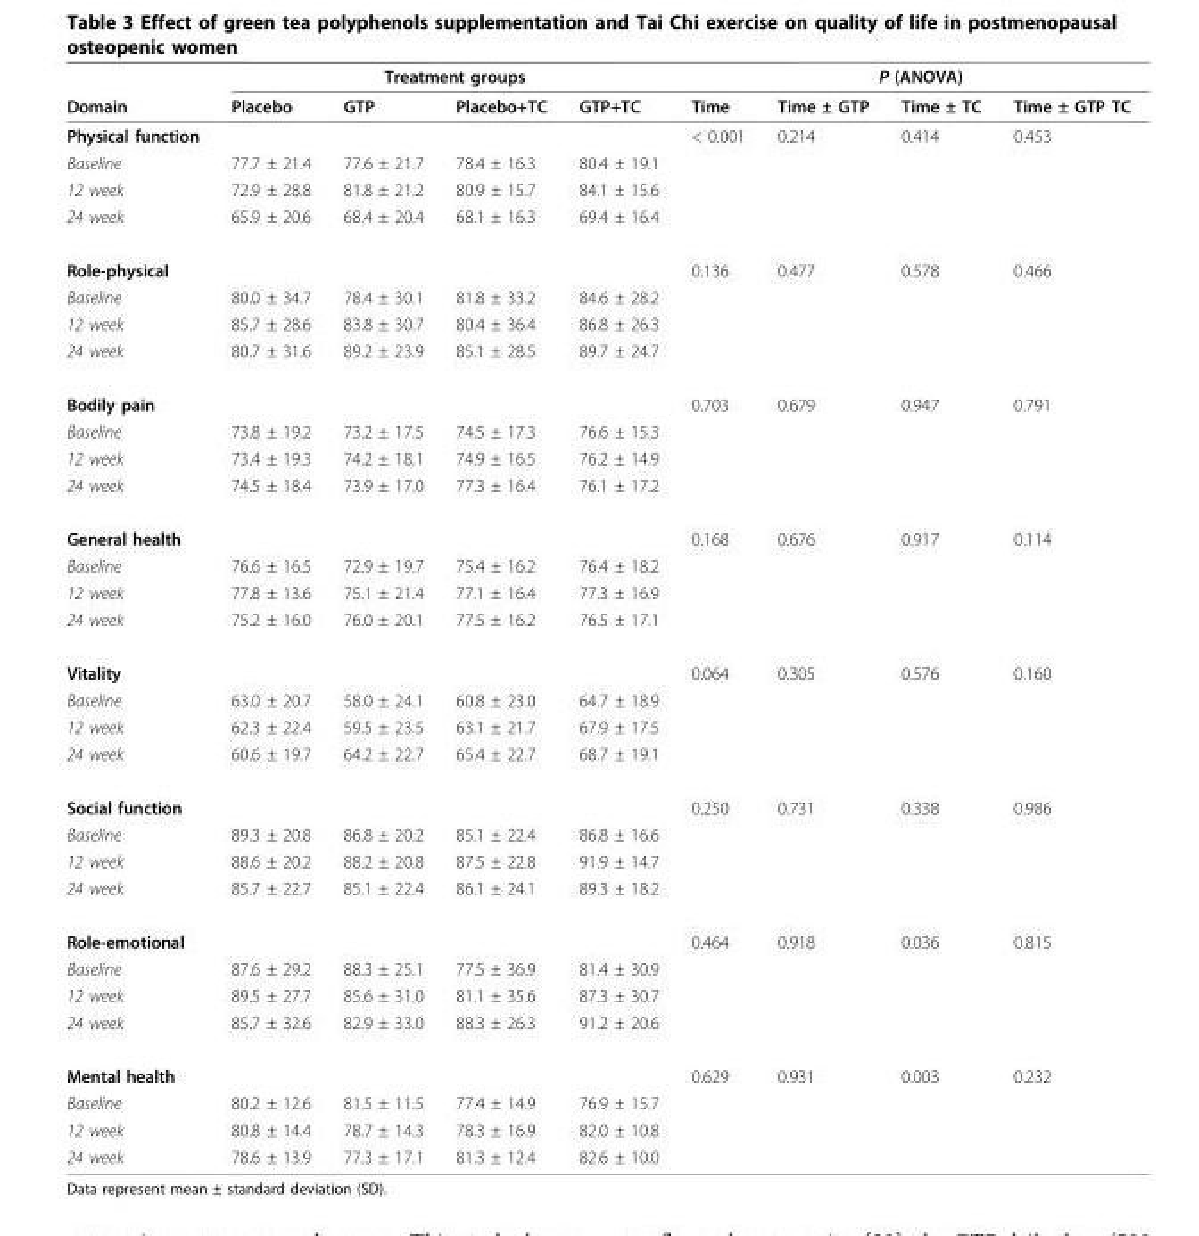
<table><thead><tr><td rowspan="2">Domain</td><td colspan="4">Treatment groups</td><td colspan="4">P (ANOVA)</td></tr><tr><td>Placebo</td><td>GTP</td><td>Placebo+TC</td><td>GTP+TC</td><td>Time</td><td>Time ± GTP</td><td>Time ± TC</td><td>Time ± GTP TC</td></tr></thead><tbody><tr><td>Physical function</td><td></td><td></td><td></td><td></td><td>&lt; 0.001</td><td>0.214</td><td>0.414</td><td>0.453</td></tr><tr><td>Baseline</td><td>77.7 ± 21.4</td><td>77.6 ± 21.7</td><td>78.4 ± 16.3</td><td>80.4 ± 19.1</td><td></td><td></td><td></td><td></td></tr><tr><td>12 week</td><td>72.9 ± 28.8</td><td>81.8 ± 21.2</td><td>80.9 ± 15.7</td><td>84.1 ± 15.6</td><td></td><td></td><td></td><td></td></tr><tr><td>24 week</td><td>65.9 ± 20.6</td><td>68.4 ± 20.4</td><td>68.1 ± 16.3</td><td>69.4 ± 16.4</td><td></td><td></td><td></td><td></td></tr><tr><td>Role-physical</td><td></td><td></td><td></td><td></td><td>0.136</td><td>0.477</td><td>0.578</td><td>0.466</td></tr><tr><td>Baseline</td><td>80.0 ± 34.7</td><td>78.4 ± 30.1</td><td>81.8 ± 33.2</td><td>84.6 ± 28.2</td><td></td><td></td><td></td><td></td></tr><tr><td>12 week</td><td>85.7 ± 28.6</td><td>83.8 ± 30.7</td><td>80.4 ± 36.4</td><td>86.8 ± 26.3</td><td></td><td></td><td></td><td></td></tr><tr><td>24 week</td><td>80.7 ± 31.6</td><td>89.2 ± 23.9</td><td>85.1 ± 28.5</td><td>89.7 ± 24.7</td><td></td><td></td><td></td><td></td></tr><tr><td>Bodily pain</td><td></td><td></td><td></td><td></td><td>0.703</td><td>0.679</td><td>0.947</td><td>0.791</td></tr><tr><td>Baseline</td><td>73.8 ± 19.2</td><td>73.2 ± 17.5</td><td>74.5 ± 17.3</td><td>76.6 ± 15.3</td><td></td><td></td><td></td><td></td></tr><tr><td>12 week</td><td>73.4 ± 19.3</td><td>74.2 ± 18.1</td><td>74.9 ± 16.5</td><td>76.2 ± 14.9</td><td></td><td></td><td></td><td></td></tr><tr><td>24 week</td><td>74.5 ± 18.4</td><td>73.9 ± 17.0</td><td>77.3 ± 16.4</td><td>76.1 ± 17.2</td><td></td><td></td><td></td><td></td></tr><tr><td>General health</td><td></td><td></td><td></td><td></td><td>0.168</td><td>0.676</td><td>0.917</td><td>0.114</td></tr><tr><td>Baseline</td><td>76.6 ± 16.5</td><td>72.9 ± 19.7</td><td>75.4 ± 16.2</td><td>76.4 ± 18.2</td><td></td><td></td><td></td><td></td></tr><tr><td>12 week</td><td>77.8 ± 13.6</td><td>75.1 ± 21.4</td><td>77.1 ± 16.4</td><td>77.3 ± 16.9</td><td></td><td></td><td></td><td></td></tr><tr><td>24 week</td><td>75.2 ± 16.0</td><td>76.0 ± 20.1</td><td>77.5 ± 16.2</td><td>76.5 ± 17.1</td><td></td><td></td><td></td><td></td></tr><tr><td>Vitality</td><td></td><td></td><td></td><td></td><td>0.064</td><td>0.305</td><td>0.576</td><td>0.160</td></tr><tr><td>Baseline</td><td>63.0 ± 20.7</td><td>58.0 ± 24.1</td><td>60.8 ± 23.0</td><td>64.7 ± 18.9</td><td></td><td></td><td></td><td></td></tr><tr><td>12 week</td><td>62.3 ± 22.4</td><td>59.5 ± 23.5</td><td>63.1 ± 21.7</td><td>67.9 ± 17.5</td><td></td><td></td><td></td><td></td></tr><tr><td>24 week</td><td>60.6 ± 19.7</td><td>64.2 ± 22.7</td><td>65.4 ± 22.7</td><td>68.7 ± 19.1</td><td></td><td></td><td></td><td></td></tr><tr><td>Social function</td><td></td><td></td><td></td><td></td><td>0.250</td><td>0.731</td><td>0.338</td><td>0.986</td></tr><tr><td>Baseline</td><td>89.3 ± 20.8</td><td>86.8 ± 20.2</td><td>85.1 ± 22.4</td><td>86.8 ± 16.6</td><td></td><td></td><td></td><td></td></tr><tr><td>12 week</td><td>88.6 ± 20.2</td><td>88.2 ± 20.8</td><td>87.5 ± 22.8</td><td>91.9 ± 14.7</td><td></td><td></td><td></td><td></td></tr><tr><td>24 week</td><td>85.7 ± 22.7</td><td>85.1 ± 22.4</td><td>86.1 ± 24.1</td><td>89.3 ± 18.2</td><td></td><td></td><td></td><td></td></tr><tr><td>Role-emotional</td><td></td><td></td><td></td><td></td><td>0.464</td><td>0.918</td><td>0.036</td><td>0.815</td></tr><tr><td>Baseline</td><td>87.6 ± 29.2</td><td>88.3 ± 25.1</td><td>77.5 ± 36.9</td><td>81.4 ± 30.9</td><td></td><td></td><td></td><td></td></tr><tr><td>12 week</td><td>89.5 ± 27.7</td><td>85.6 ± 31.0</td><td>81.1 ± 35.6</td><td>87.3 ± 30.7</td><td></td><td></td><td></td><td></td></tr><tr><td>24 week</td><td>85.7 ± 32.6</td><td>82.9 ± 33.0</td><td>88.3 ± 26.3</td><td>91.2 ± 20.6</td><td></td><td></td><td></td><td></td></tr><tr><td>Mental health</td><td></td><td></td><td></td><td></td><td>0.629</td><td>0.931</td><td>0.003</td><td>0.232</td></tr><tr><td>Baseline</td><td>80.2 ± 12.6</td><td>81.5 ± 11.5</td><td>77.4 ± 14.9</td><td>76.9 ± 15.7</td><td></td><td></td><td></td><td></td></tr><tr><td>12 week</td><td>80.8 ± 14.4</td><td>78.7 ± 14.3</td><td>78.3 ± 16.9</td><td>82.0 ± 10.8</td><td></td><td></td><td></td><td></td></tr><tr><td>24 week</td><td>78.6 ± 13.9</td><td>77.3 ± 17.1</td><td>81.3 ± 12.4</td><td>82.6 ± 10.0</td><td></td><td></td><td></td><td></td></tr></tbody></table>